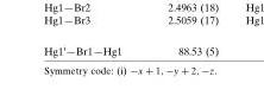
<table><tbody><tr><td>Hg1<sup>i</sup>—Br1—Hg1</td><td>88.53 (5)</td></tr></tbody></table>